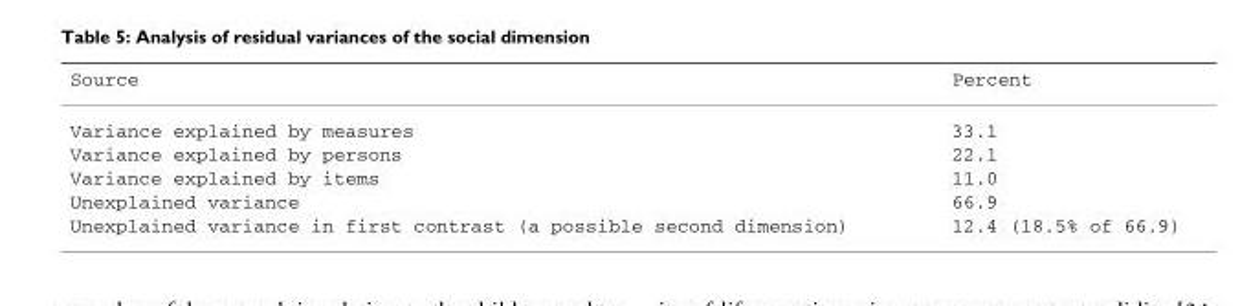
<table><thead><tr><td>Source</td><td>Percent</td></tr></thead><tbody><tr><td>Variance explained by measures</td><td>33.1</td></tr><tr><td>Variance explained by persons</td><td>22.1</td></tr><tr><td>Variance explained by items</td><td>11.0</td></tr><tr><td>Unexplained variance</td><td>66.9</td></tr><tr><td>Unexplained variance in first contrast (a possible second dimension)</td><td>12.4 (18.5% of 66.9)</td></tr></tbody></table>